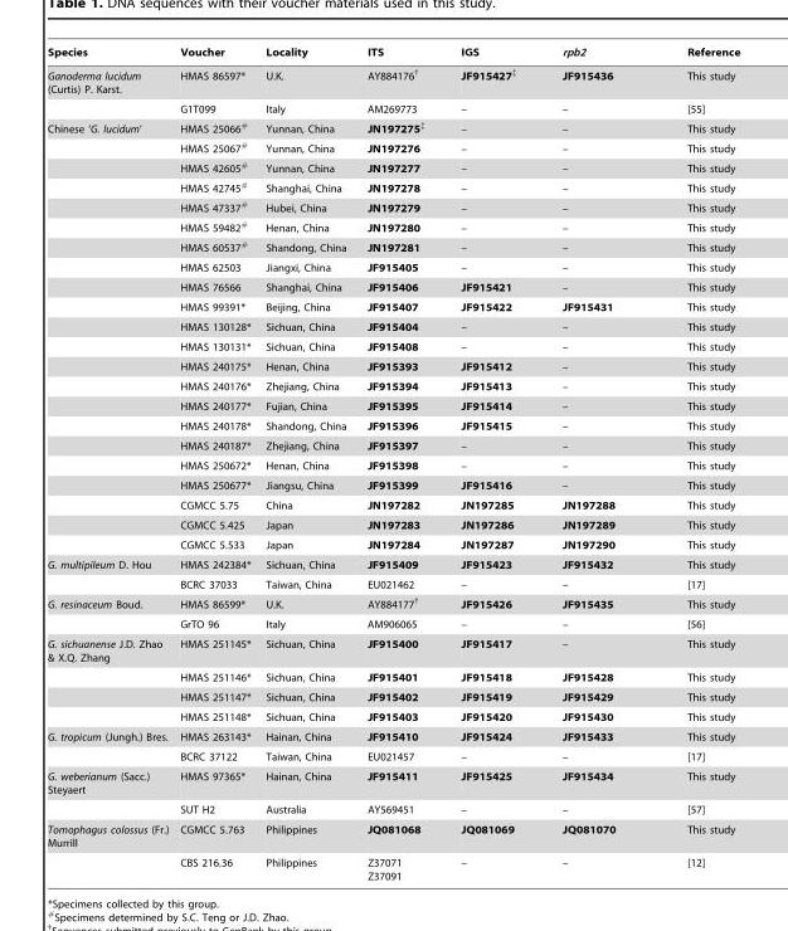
<table><thead><tr><td>Species</td><td>Voucher</td><td>Locality</td><td>ITS</td><td>IGS</td><td>rpb2</td><td>Reference</td></tr></thead><tbody><tr><td rowspan="2">Ganoderma lucidum (Curtis) P. Karst.</td><td>HMAS 86597*</td><td>U.K.</td><td>AY884176†</td><td>JF915427‡</td><td>JF915436</td><td>This study</td></tr><tr><td>G1T099</td><td>Italy</td><td>AM269773</td><td>–</td><td>–</td><td>[55]</td></tr><tr><td rowspan="22">Chinese ‘G. lucidum’</td><td>HMAS 25066#</td><td>Yunnan, China</td><td>JN197275‡</td><td>–</td><td>–</td><td>This study</td></tr><tr><td>HMAS 25067#</td><td>Yunnan, China</td><td>JN197276</td><td>–</td><td>–</td><td>This study</td></tr><tr><td>HMAS 42605#</td><td>Yunnan, China</td><td>JN197277</td><td>–</td><td>–</td><td>This study</td></tr><tr><td>HMAS 42745#</td><td>Shanghai, China</td><td>JN197278</td><td>–</td><td>–</td><td>This study</td></tr><tr><td>HMAS 47337#</td><td>Hubei, China</td><td>JN197279</td><td>–</td><td>–</td><td>This study</td></tr><tr><td>HMAS 59482#</td><td>Henan, China</td><td>JN197280</td><td>–</td><td>–</td><td>This study</td></tr><tr><td>HMAS 60537#</td><td>Shandong, China</td><td>JN197281</td><td>–</td><td>–</td><td>This study</td></tr><tr><td>HMAS 62503</td><td>Jiangxi, China</td><td>JF915405</td><td>–</td><td>–</td><td>This study</td></tr><tr><td>HMAS 76566</td><td>Shanghai, China</td><td>JF915406</td><td>JF915421</td><td>–</td><td>This study</td></tr><tr><td>HMAS 99391*</td><td>Beijing, China</td><td>JF915407</td><td>JF915422</td><td>JF915431</td><td>This study</td></tr><tr><td>HMAS 130128*</td><td>Sichuan, China</td><td>JF915404</td><td>–</td><td>–</td><td>This study</td></tr><tr><td>HMAS 130131*</td><td>Sichuan, China</td><td>JF915408</td><td>–</td><td>–</td><td>This study</td></tr><tr><td>HMAS 240175*</td><td>Henan, China</td><td>JF915393</td><td>JF915412</td><td>–</td><td>This study</td></tr><tr><td>HMAS 240176*</td><td>Zhejiang, China</td><td>JF915394</td><td>JF915413</td><td>–</td><td>This study</td></tr><tr><td>HMAS 240177*</td><td>Fujian, China</td><td>JF915395</td><td>JF915414</td><td>–</td><td>This study</td></tr><tr><td>HMAS 240178*</td><td>Shandong, China</td><td>JF915396</td><td>JF915415</td><td>–</td><td>This study</td></tr><tr><td>HMAS 240187*</td><td>Zhejiang, China</td><td>JF915397</td><td>–</td><td>–</td><td>This study</td></tr><tr><td>HMAS 250672*</td><td>Henan, China</td><td>JF915398</td><td>–</td><td>–</td><td>This study</td></tr><tr><td>HMAS 250677*</td><td>Jiangsu, China</td><td>JF915399</td><td>JF915416</td><td>–</td><td>This study</td></tr><tr><td>CGMCC 5.75</td><td>China</td><td>JN197282</td><td>JN197285</td><td>JN197288</td><td>This study</td></tr><tr><td>CGMCC 5.425</td><td>Japan</td><td>JN197283</td><td>JN197286</td><td>JN197289</td><td>This study</td></tr><tr><td>CGMCC 5.533</td><td>Japan</td><td>JN197284</td><td>JN197287</td><td>JN197290</td><td>This study</td></tr><tr><td rowspan="2">G. multipileum D. Hou</td><td>HMAS 242384*</td><td>Sichuan, China</td><td>JF915409</td><td>JF915423</td><td>JF915432</td><td>This study</td></tr><tr><td>BCRC 37033</td><td>Taiwan, China</td><td>EU021462</td><td>–</td><td>–</td><td>[17]</td></tr><tr><td rowspan="2">G. resinaceum Boud.</td><td>HMAS 86599*</td><td>U.K.</td><td>AY884177†</td><td>JF915426</td><td>JF915435</td><td>This study</td></tr><tr><td>GrTO 96</td><td>Italy</td><td>AM906065</td><td>–</td><td>–</td><td>[56]</td></tr><tr><td rowspan="4">G. sichuanense J.D. Zhao &amp; X.Q. Zhang</td><td>HMAS 251145*</td><td>Sichuan, China</td><td>JF915400</td><td>JF915417</td><td>–</td><td>This study</td></tr><tr><td>HMAS 251146*</td><td>Sichuan, China</td><td>JF915401</td><td>JF915418</td><td>JF915428</td><td>This study</td></tr><tr><td>HMAS 251147*</td><td>Sichuan, China</td><td>JF915402</td><td>JF915419</td><td>JF915429</td><td>This study</td></tr><tr><td>HMAS 251148*</td><td>Sichuan, China</td><td>JF915403</td><td>JF915420</td><td>JF915430</td><td>This study</td></tr><tr><td rowspan="2">G. tropicum (Jungh.) Bres.</td><td>HMAS 263143*</td><td>Hainan, China</td><td>JF915410</td><td>JF915424</td><td>JF915433</td><td>This study</td></tr><tr><td>BCRC 37122</td><td>Taiwan, China</td><td>EU021457</td><td>–</td><td>–</td><td>[17]</td></tr><tr><td rowspan="2">G. weberianum (Sacc.) Steyaert</td><td>HMAS 97365*</td><td>Hainan, China</td><td>JF915411</td><td>JF915425</td><td>JF915434</td><td>This study</td></tr><tr><td>SUT H2</td><td>Australia</td><td>AY569451</td><td>–</td><td>–</td><td>[57]</td></tr><tr><td rowspan="2">Tomophagus colossus (Fr.) Murrill</td><td>CGMCC 5.763</td><td>Philippines</td><td>JQ081068</td><td>JQ081069</td><td>JQ081070</td><td>This study</td></tr><tr><td>CBS 216.36</td><td>Philippines</td><td>Z37071 Z37091</td><td>–</td><td>–</td><td>[12]</td></tr></tbody></table>